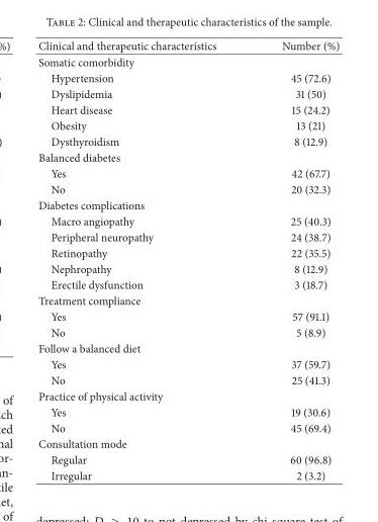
<table><thead><tr><td>Clinical and therapeutic characteristics</td><td>Number (%)</td></tr></thead><tbody><tr><td colspan="2">Somatic comorbidity</td></tr><tr><td>Hypertension</td><td>45 (72.6)</td></tr><tr><td>Dyslipidemia</td><td>31 (50)</td></tr><tr><td>Heart disease</td><td>15 (24.2)</td></tr><tr><td>Obesity</td><td>13 (21)</td></tr><tr><td>Dysthyroidism</td><td>8 (12.9)</td></tr><tr><td colspan="2">Balanced diabetes</td></tr><tr><td>Yes</td><td>42 (67.7)</td></tr><tr><td>No</td><td>20 (32.3)</td></tr><tr><td colspan="2">Diabetes complications</td></tr><tr><td>Macro angiopathy</td><td>25 (40.3)</td></tr><tr><td>Peripheral neuropathy</td><td>24 (38.7)</td></tr><tr><td>Retinopathy</td><td>22 (35.5)</td></tr><tr><td>Nephropathy</td><td>8 (12.9)</td></tr><tr><td>Erectile dysfunction</td><td>3 (18.7)</td></tr><tr><td colspan="2">Treatment compliance</td></tr><tr><td>Yes</td><td>57 (91.1)</td></tr><tr><td>No</td><td>5 (8.9)</td></tr><tr><td colspan="2">Follow a balanced diet</td></tr><tr><td>Yes</td><td>37 (59.7)</td></tr><tr><td>No</td><td>25 (41.3)</td></tr><tr><td colspan="2">Practice of physical activity</td></tr><tr><td>Yes</td><td>19 (30.6)</td></tr><tr><td>No</td><td>45 (69.4)</td></tr><tr><td colspan="2">Consultation mode</td></tr><tr><td>Regular</td><td>60 (96.8)</td></tr><tr><td>Irregular</td><td>2 (3.2)</td></tr></tbody></table>